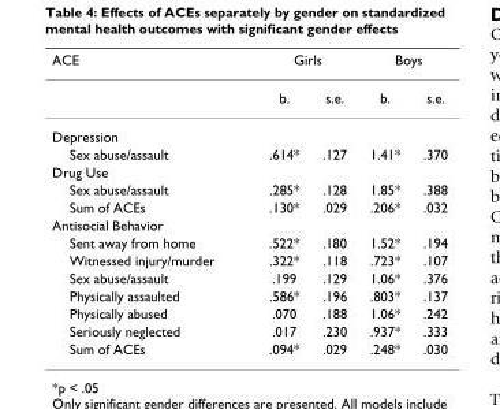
<table><thead><tr><td rowspan="2">ACE</td><td colspan="2">Girls</td><td colspan="2">Boys</td></tr><tr><td>b.</td><td>s.e.</td><td>b.</td><td>s.e.</td></tr></thead><tbody><tr><td colspan="5">Depression</td></tr><tr><td>Sex abuse/assault</td><td>.614*</td><td>.127</td><td>1.41*</td><td>.370</td></tr><tr><td colspan="5">Drug Use</td></tr><tr><td>Sex abuse/assault</td><td>.285*</td><td>.128</td><td>1.85*</td><td>.388</td></tr><tr><td>Sum of ACEs</td><td>.130*</td><td>.029</td><td>.206*</td><td>.032</td></tr><tr><td colspan="5">Antisocial Behavior</td></tr><tr><td>Sent away from home</td><td>.522*</td><td>.180</td><td>1.52*</td><td>.194</td></tr><tr><td>Witnessed injury/murder</td><td>.322*</td><td>.118</td><td>.723*</td><td>.107</td></tr><tr><td>Sex abuse/assault</td><td>.199</td><td>.129</td><td>1.06*</td><td>.376</td></tr><tr><td>Physically assaulted</td><td>.586*</td><td>.196</td><td>.803*</td><td>.137</td></tr><tr><td>Physically abused</td><td>.070</td><td>.188</td><td>1.06*</td><td>.242</td></tr><tr><td>Seriously neglected</td><td>.017</td><td>.230</td><td>.937*</td><td>.333</td></tr><tr><td>Sum of ACEs</td><td>.094*</td><td>.029</td><td>.248*</td><td>.030</td></tr></tbody></table>